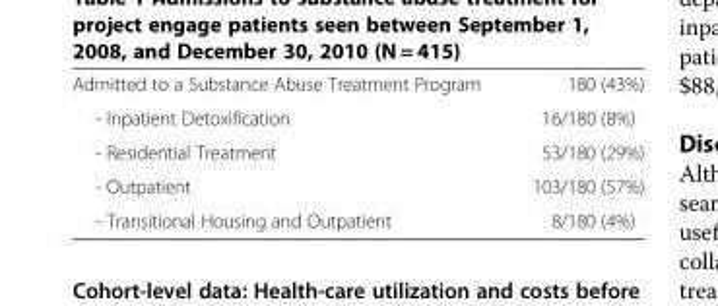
<table><tbody><tr><td>Admitted to a Substance Abuse Treatment Program</td><td>180 (43%)</td></tr><tr><td>- Inpatient Detoxification</td><td>16/180 (8%)</td></tr><tr><td>- Residential Treatment</td><td>53/180 (29%)</td></tr><tr><td>- Outpatient</td><td>103/180 (57%)</td></tr><tr><td>- Transitional Housing and Outpatient</td><td>8/180 (4%)</td></tr></tbody></table>